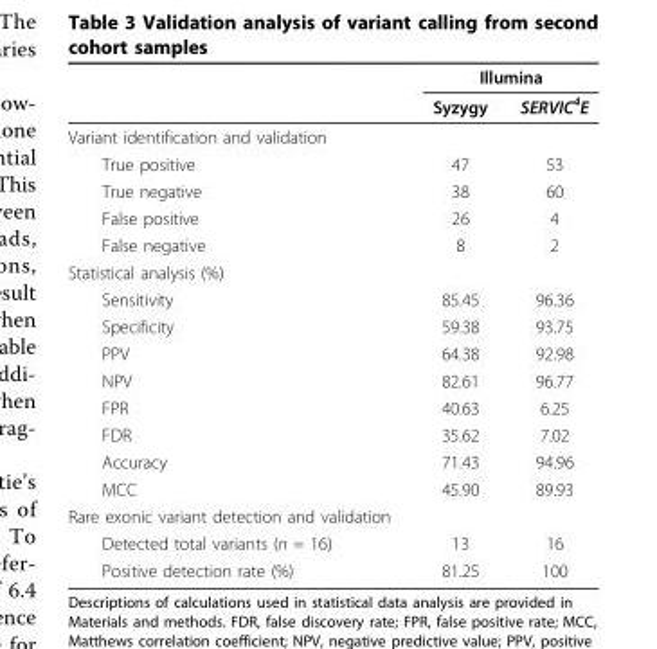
<table><thead><tr><td rowspan="2"></td><td colspan="2">Illumina</td></tr><tr><td>Syzygy</td><td>SERVIC<sup>4</sup>E</td></tr></thead><tbody><tr><td colspan="3">Variant identification and validation</td></tr><tr><td>True positive</td><td>47</td><td>53</td></tr><tr><td>True negative</td><td>38</td><td>60</td></tr><tr><td>False positive</td><td>26</td><td>4</td></tr><tr><td>False negative</td><td>8</td><td>2</td></tr><tr><td colspan="3">Statistical analysis (%)</td></tr><tr><td>Sensitivity</td><td>85.45</td><td>96.36</td></tr><tr><td>Specificity</td><td>59.38</td><td>93.75</td></tr><tr><td>PPV</td><td>64.38</td><td>92.98</td></tr><tr><td>NPV</td><td>82.61</td><td>96.77</td></tr><tr><td>FPR</td><td>40.63</td><td>6.25</td></tr><tr><td>FDR</td><td>35.62</td><td>7.02</td></tr><tr><td>Accuracy</td><td>71.43</td><td>94.96</td></tr><tr><td>MCC</td><td>45.90</td><td>89.93</td></tr><tr><td colspan="3">Rare exonic variant detection and validation</td></tr><tr><td>Detected total variants (n = 16)</td><td>13</td><td>16</td></tr><tr><td>Positive detection rate (%)</td><td>81.25</td><td>100</td></tr></tbody></table>